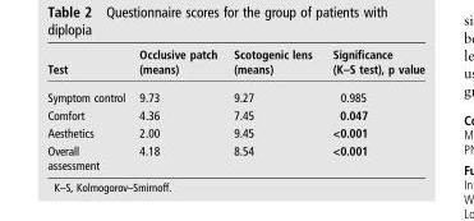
<table><thead><tr><td>Test</td><td>Occlusive patch (means)</td><td>Scotogenic lens (means)</td><td>Significance (K–S test), p value</td></tr></thead><tbody><tr><td>Symptom control</td><td>9.73</td><td>9.27</td><td>0.985</td></tr><tr><td>Comfort</td><td>4.36</td><td>7.45</td><td>0.047</td></tr><tr><td>Aesthetics</td><td>2.00</td><td>9.45</td><td>&lt;0.001</td></tr><tr><td>Overall assessment</td><td>4.18</td><td>8.54</td><td>&lt;0.001</td></tr></tbody></table>